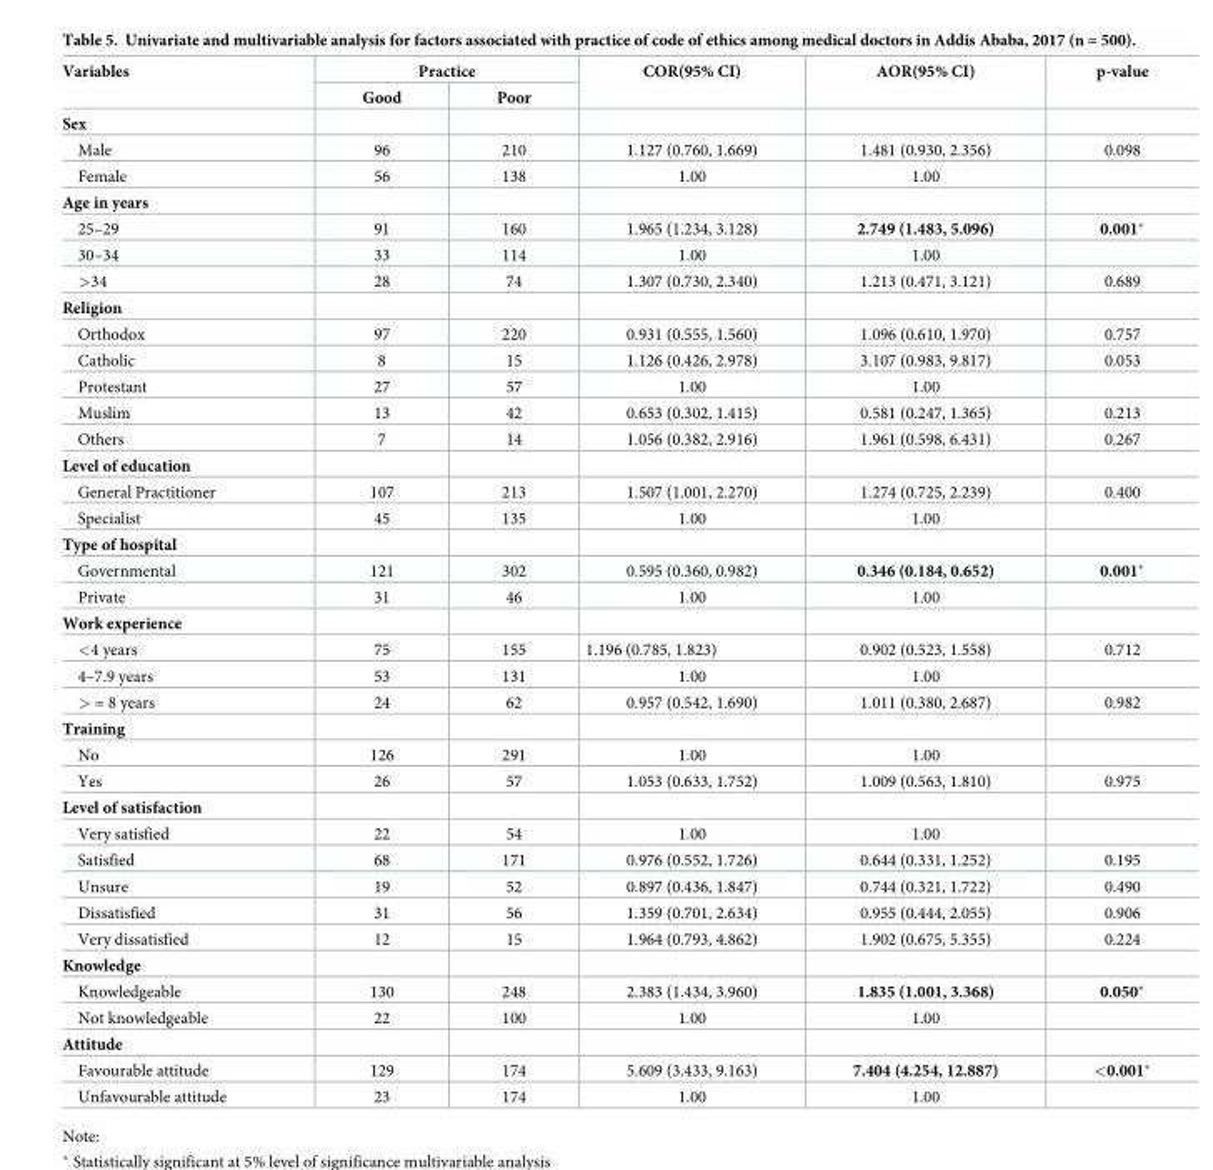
<table><thead><tr><td rowspan="2">Variables</td><td colspan="2">Practice</td><td rowspan="2">COR(95% CI)</td><td rowspan="2">AOR(95% CI)</td><td rowspan="2">p-value</td></tr><tr><td>Good</td><td>Poor</td></tr></thead><tbody><tr><td colspan="6">Sex</td></tr><tr><td>Male</td><td>96</td><td>210</td><td>1.127 (0.760, 1.669)</td><td>1.481 (0.930, 2.356)</td><td>0.098</td></tr><tr><td>Female</td><td>56</td><td>138</td><td>1.00</td><td>1.00</td><td></td></tr><tr><td colspan="6">Age in years</td></tr><tr><td>25–29</td><td>91</td><td>160</td><td>1.965 (1.234, 3.128)</td><td>2.749 (1.483, 5.096)</td><td>0.001*</td></tr><tr><td>30–34</td><td>33</td><td>114</td><td>1.00</td><td>1.00</td><td></td></tr><tr><td>&gt;34</td><td>28</td><td>74</td><td>1.307 (0.730, 2.340)</td><td>1.213 (0.471, 3.121)</td><td>0.689</td></tr><tr><td colspan="6">Religion</td></tr><tr><td>Orthodox</td><td>97</td><td>220</td><td>0.931 (0.555, 1.560)</td><td>1.096 (0.610, 1.970)</td><td>0.757</td></tr><tr><td>Catholic</td><td>8</td><td>15</td><td>1.126 (0.426, 2.978)</td><td>3.107 (0.983, 9.817)</td><td>0.053</td></tr><tr><td>Protestant</td><td>27</td><td>57</td><td>1.00</td><td>1.00</td><td></td></tr><tr><td>Muslim</td><td>13</td><td>42</td><td>0.653 (0.302, 1.415)</td><td>0.581 (0.247, 1.365)</td><td>0.213</td></tr><tr><td>Others</td><td>7</td><td>14</td><td>1.056 (0.382, 2.916)</td><td>1.961 (0.598, 6.431)</td><td>0.267</td></tr><tr><td colspan="6">Level of education</td></tr><tr><td>General Practitioner</td><td>107</td><td>213</td><td>1.507 (1.001, 2.270)</td><td>1.274 (0.725, 2.239)</td><td>0.400</td></tr><tr><td>Specialist</td><td>45</td><td>135</td><td>1.00</td><td>1.00</td><td></td></tr><tr><td colspan="6">Type of hospital</td></tr><tr><td>Governmental</td><td>121</td><td>302</td><td>0.595 (0.360, 0.982)</td><td>0.346 (0.184, 0.652)</td><td>0.001*</td></tr><tr><td>Private</td><td>31</td><td>46</td><td>1.00</td><td>1.00</td><td></td></tr><tr><td colspan="6">Work experience</td></tr><tr><td>&lt;4 years</td><td>75</td><td>155</td><td>1.196 (0.785, 1.823)</td><td>0.902 (0.523, 1.558)</td><td>0.712</td></tr><tr><td>4–7.9 years</td><td>53</td><td>131</td><td>1.00</td><td>1.00</td><td></td></tr><tr><td>&gt; = 8 years</td><td>24</td><td>62</td><td>0.957 (0.542, 1.690)</td><td>1.011 (0.380, 2.687)</td><td>0.982</td></tr><tr><td colspan="6">Training</td></tr><tr><td>No</td><td>126</td><td>291</td><td>1.00</td><td>1.00</td><td></td></tr><tr><td>Yes</td><td>26</td><td>57</td><td>1.053 (0.633, 1.752)</td><td>1.009 (0.563, 1.810)</td><td>0.975</td></tr><tr><td colspan="6">Level of satisfaction</td></tr><tr><td>Very satisfied</td><td>22</td><td>54</td><td>1.00</td><td>1.00</td><td></td></tr><tr><td>Satisfied</td><td>68</td><td>171</td><td>0.976 (0.552, 1.726)</td><td>0.644 (0.331, 1.252)</td><td>0.195</td></tr><tr><td>Unsure</td><td>19</td><td>52</td><td>0.897 (0.436, 1.847)</td><td>0.744 (0.321, 1.722)</td><td>0.490</td></tr><tr><td>Dissatisfied</td><td>31</td><td>56</td><td>1.359 (0.701, 2.634)</td><td>0.955 (0.444, 2.055)</td><td>0.906</td></tr><tr><td>Very dissatisfied</td><td>12</td><td>15</td><td>1.964 (0.793, 4.862)</td><td>1.902 (0.675, 5.355)</td><td>0.224</td></tr><tr><td colspan="6">Knowledge</td></tr><tr><td>Knowledgeable</td><td>130</td><td>248</td><td>2.383 (1.434, 3.960)</td><td>1.835 (1.001, 3.368)</td><td>0.050*</td></tr><tr><td>Not knowledgeable</td><td>22</td><td>100</td><td>1.00</td><td>1.00</td><td></td></tr><tr><td colspan="6">Attitude</td></tr><tr><td>Favourable attitude</td><td>129</td><td>174</td><td>5.609 (3.433, 9.163)</td><td>7.404 (4.254, 12.887)</td><td>&lt;0.001*</td></tr><tr><td>Unfavourable attitude</td><td>23</td><td>174</td><td>1.00</td><td>1.00</td><td></td></tr></tbody></table>